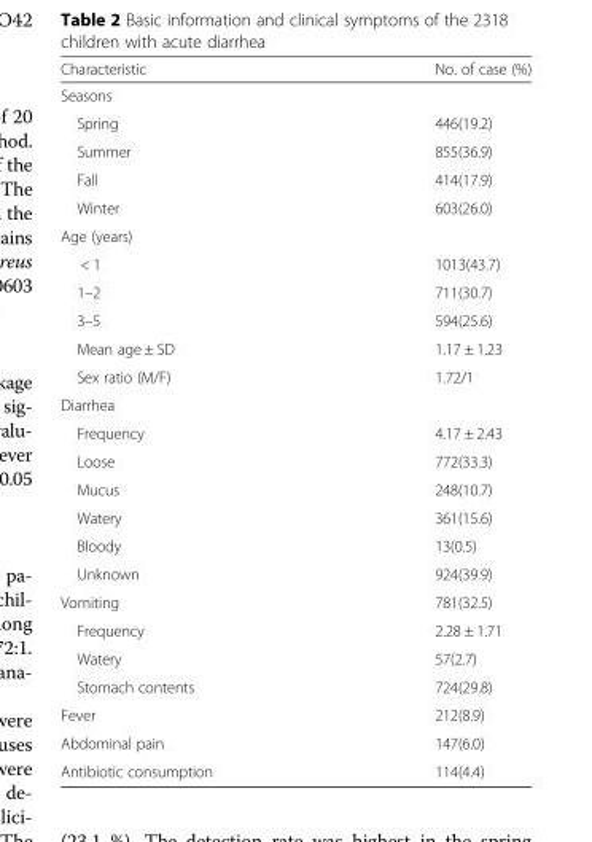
<table><thead><tr><td>Characteristic</td><td>No. of case (%)</td></tr></thead><tbody><tr><td colspan="2">Seasons</td></tr><tr><td>Spring</td><td>446(19.2)</td></tr><tr><td>Summer</td><td>855(36.9)</td></tr><tr><td>Fall</td><td>414(17.9)</td></tr><tr><td>Winter</td><td>603(26.0)</td></tr><tr><td colspan="2">Age (years)</td></tr><tr><td>&lt; 1</td><td>1013(43.7)</td></tr><tr><td>1–2</td><td>711(30.7)</td></tr><tr><td>3–5</td><td>594(25.6)</td></tr><tr><td>Mean age ± SD</td><td>1.17 ± 1.23</td></tr><tr><td>Sex ratio (M/F)</td><td>1.72/1</td></tr><tr><td colspan="2">Diarrhea</td></tr><tr><td>Frequency</td><td>4.17 ± 2.43</td></tr><tr><td>Loose</td><td>772(33.3)</td></tr><tr><td>Mucus</td><td>248(10.7)</td></tr><tr><td>Watery</td><td>361(15.6)</td></tr><tr><td>Bloody</td><td>13(0.5)</td></tr><tr><td>Unknown</td><td>924(39.9)</td></tr><tr><td>Vomiting</td><td>781(32.5)</td></tr><tr><td>Frequency</td><td>2.28 ± 1.71</td></tr><tr><td>Watery</td><td>57(2.7)</td></tr><tr><td>Stomach contents</td><td>724(29.8)</td></tr><tr><td>Fever</td><td>212(8.9)</td></tr><tr><td>Abdominal pain</td><td>147(6.0)</td></tr><tr><td>Antibiotic consumption</td><td>114(4.4)</td></tr></tbody></table>